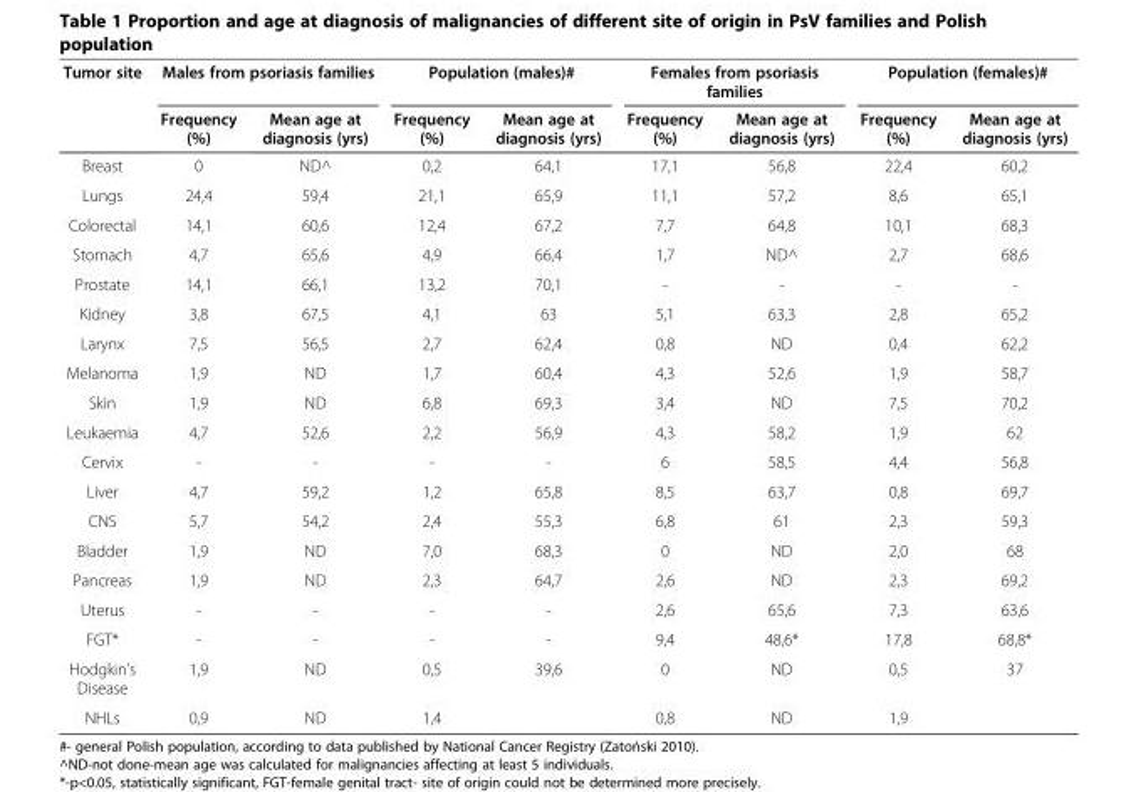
<table><thead><tr><td rowspan="2">Tumor site</td><td colspan="2">Males from psoriasis families</td><td colspan="2">Population (males)#</td><td colspan="2">Females from psoriasis families</td><td colspan="2">Population (females)#</td></tr><tr><td>Frequency (%)</td><td>Mean age at diagnosis (yrs)</td><td>Frequency (%)</td><td>Mean age at diagnosis (yrs)</td><td>Frequency (%)</td><td>Mean age at diagnosis (yrs)</td><td>Frequency (%)</td><td>Mean age at diagnosis (yrs)</td></tr></thead><tbody><tr><td>Breast</td><td>0</td><td>ND^</td><td>0,2</td><td>64,1</td><td>17,1</td><td>56,8</td><td>22,4</td><td>60,2</td></tr><tr><td>Lungs</td><td>24,4</td><td>59,4</td><td>21,1</td><td>65,9</td><td>11,1</td><td>57,2</td><td>8,6</td><td>65,1</td></tr><tr><td>Colorectal</td><td>14,1</td><td>60,6</td><td>12,4</td><td>67,2</td><td>7,7</td><td>64,8</td><td>10,1</td><td>68,3</td></tr><tr><td>Stomach</td><td>4,7</td><td>65,6</td><td>4,9</td><td>66,4</td><td>1,7</td><td>ND^</td><td>2,7</td><td>68,6</td></tr><tr><td>Prostate</td><td>14,1</td><td>66,1</td><td>13,2</td><td>70,1</td><td>-</td><td>-</td><td>-</td><td>-</td></tr><tr><td>Kidney</td><td>3,8</td><td>67,5</td><td>4,1</td><td>63</td><td>5,1</td><td>63,3</td><td>2,8</td><td>65,2</td></tr><tr><td>Larynx</td><td>7,5</td><td>56,5</td><td>2,7</td><td>62,4</td><td>0,8</td><td>ND</td><td>0,4</td><td>62,2</td></tr><tr><td>Melanoma</td><td>1,9</td><td>ND</td><td>1,7</td><td>60,4</td><td>4,3</td><td>52,6</td><td>1,9</td><td>58,7</td></tr><tr><td>Skin</td><td>1,9</td><td>ND</td><td>6,8</td><td>69,3</td><td>3,4</td><td>ND</td><td>7,5</td><td>70,2</td></tr><tr><td>Leukaemia</td><td>4,7</td><td>52,6</td><td>2,2</td><td>56,9</td><td>4,3</td><td>58,2</td><td>1,9</td><td>62</td></tr><tr><td>Cervix</td><td>-</td><td>-</td><td>-</td><td>-</td><td>6</td><td>58,5</td><td>4,4</td><td>56,8</td></tr><tr><td>Liver</td><td>4,7</td><td>59,2</td><td>1,2</td><td>65,8</td><td>8,5</td><td>63,7</td><td>0,8</td><td>69,7</td></tr><tr><td>CNS</td><td>5,7</td><td>54,2</td><td>2,4</td><td>55,3</td><td>6,8</td><td>61</td><td>2,3</td><td>59,3</td></tr><tr><td>Bladder</td><td>1,9</td><td>ND</td><td>7,0</td><td>68,3</td><td>0</td><td>ND</td><td>2,0</td><td>68</td></tr><tr><td>Pancreas</td><td>1,9</td><td>ND</td><td>2,3</td><td>64,7</td><td>2,6</td><td>ND</td><td>2,3</td><td>69,2</td></tr><tr><td>Uterus</td><td>-</td><td>-</td><td>-</td><td>-</td><td>2,6</td><td>65,6</td><td>7,3</td><td>63,6</td></tr><tr><td>FGT*</td><td>-</td><td>-</td><td>-</td><td>-</td><td>9,4</td><td>48,6*</td><td>17,8</td><td>68,8*</td></tr><tr><td>Hodgkin’s Disease</td><td>1,9</td><td>ND</td><td>0,5</td><td>39,6</td><td>0</td><td>ND</td><td>0,5</td><td>37</td></tr><tr><td>NHLs</td><td>0,9</td><td>ND</td><td>1,4</td><td></td><td>0,8</td><td>ND</td><td>1,9</td><td></td></tr></tbody></table>